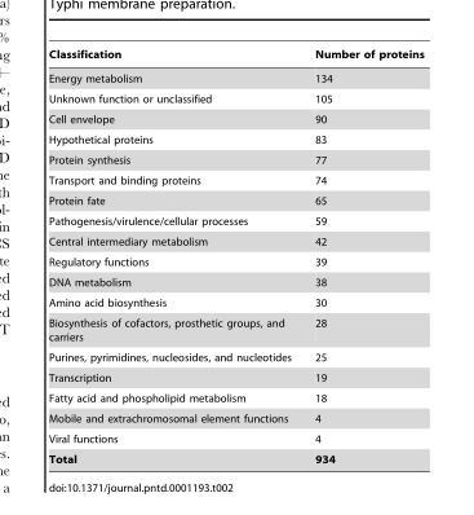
<table><thead><tr><td>Classification</td><td>Number of proteins</td></tr></thead><tbody><tr><td>Energy metabolism</td><td>134</td></tr><tr><td>Unknown function or unclassified</td><td>105</td></tr><tr><td>Cell envelope</td><td>90</td></tr><tr><td>Hypothetical proteins</td><td>83</td></tr><tr><td>Protein synthesis</td><td>77</td></tr><tr><td>Transport and binding proteins</td><td>74</td></tr><tr><td>Protein fate</td><td>65</td></tr><tr><td>Pathogenesis/virulence/cellular processes</td><td>59</td></tr><tr><td>Central intermediary metabolism</td><td>42</td></tr><tr><td>Regulatory functions</td><td>39</td></tr><tr><td>DNA metabolism</td><td>38</td></tr><tr><td>Amino acid biosynthesis</td><td>30</td></tr><tr><td>Biosynthesis of cofactors, prosthetic groups, and carriers</td><td>28</td></tr><tr><td>Purines, pyrimidines, nucleosides, and nucleotides</td><td>25</td></tr><tr><td>Transcription</td><td>19</td></tr><tr><td>Fatty acid and phospholipid metabolism</td><td>18</td></tr><tr><td>Mobile and extrachromosomal element functions</td><td>4</td></tr><tr><td>Viral functions</td><td>4</td></tr><tr><td>Total</td><td>934</td></tr></tbody></table>